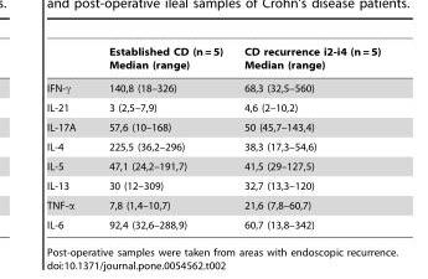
<table><thead><tr><td></td><td>Established CD (n = 5) Median (range)</td><td>CD recurrence i2-i4 (n = 5) Median (range)</td></tr></thead><tbody><tr><td>IFN-γ</td><td>140,8 (18–326)</td><td>68,3 (32,5–560)</td></tr><tr><td>IL-21</td><td>3 (2,5–7,9)</td><td>4,6 (2–10,2)</td></tr><tr><td>IL-17A</td><td>57,6 (10–168)</td><td>50 (45,7–143,4)</td></tr><tr><td>IL-4</td><td>225,5 (36,2–296)</td><td>38,3 (17,3–54,6)</td></tr><tr><td>IL-5</td><td>47,1 (24,2–191,7)</td><td>41,5 (29–127,5)</td></tr><tr><td>IL-13</td><td>30 (12–309)</td><td>32,7 (13,3–120)</td></tr><tr><td>TNF-α</td><td>7,8 (1,4–10,7)</td><td>21,6 (7,8–60,7)</td></tr><tr><td>IL-6</td><td>92,4 (32,6–288,9)</td><td>60,7 (13,8–342)</td></tr></tbody></table>